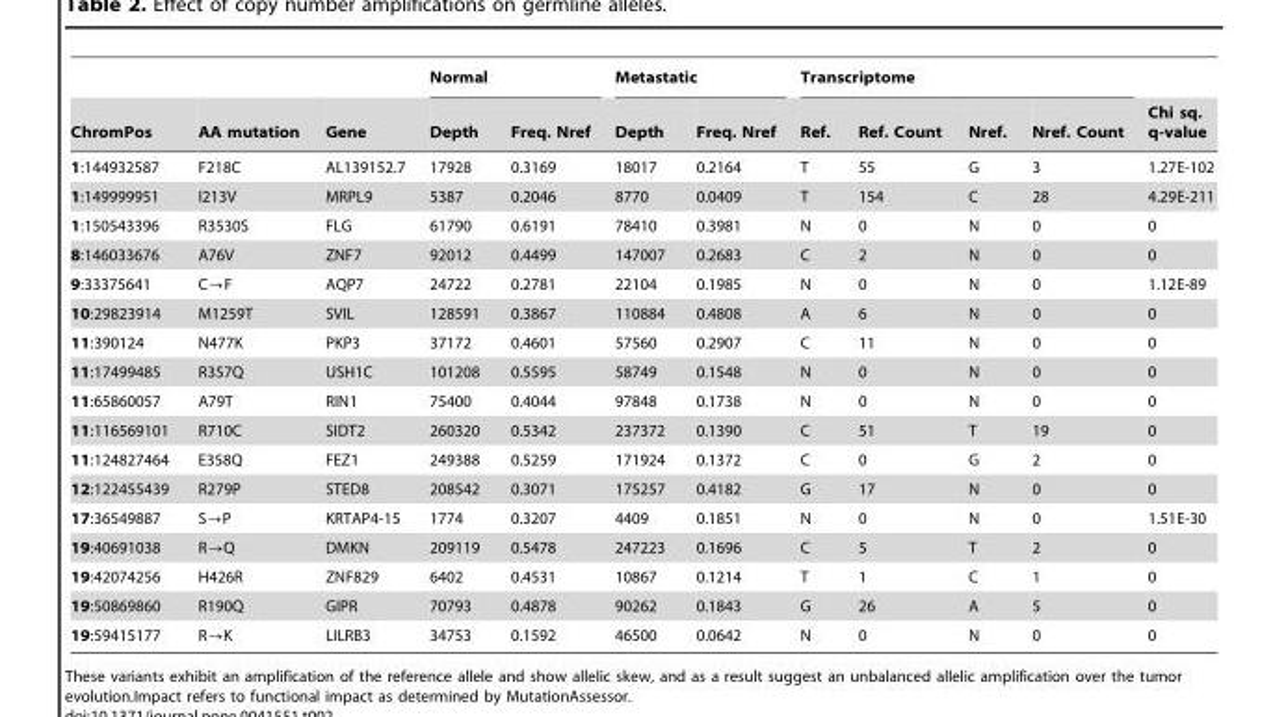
<table><thead><tr><td rowspan="2">ChromPos</td><td rowspan="2">AA mutation</td><td rowspan="2">Gene</td><td colspan="2">Normal</td><td colspan="2">Metastatic</td><td colspan="4">Transcriptome</td><td rowspan="2">Chi sq. q-value</td></tr><tr><td>Depth</td><td>Freq. Nref</td><td>Depth</td><td>Freq. Nref</td><td>Ref.</td><td>Ref. Count</td><td>Nref.</td><td>Nref. Count</td></tr></thead><tbody><tr><td>1:144932587</td><td>F218C</td><td>AL139152.7</td><td>17928</td><td>0.3169</td><td>18017</td><td>0.2164</td><td>T</td><td>55</td><td>G</td><td>3</td><td>1.27E-102</td></tr><tr><td>1:149999951</td><td>I213V</td><td>MRPL9</td><td>5387</td><td>0.2046</td><td>8770</td><td>0.0409</td><td>T</td><td>154</td><td>C</td><td>28</td><td>4.29E-211</td></tr><tr><td>1:150543396</td><td>R3530S</td><td>FLG</td><td>61790</td><td>0.6191</td><td>78410</td><td>0.3981</td><td>N</td><td>0</td><td>N</td><td>0</td><td>0</td></tr><tr><td>8:146033676</td><td>A76V</td><td>ZNF7</td><td>92012</td><td>0.4499</td><td>147007</td><td>0.2683</td><td>C</td><td>2</td><td>N</td><td>0</td><td>0</td></tr><tr><td>9:33375641</td><td>C?F</td><td>AQP7</td><td>24722</td><td>0.2781</td><td>22104</td><td>0.1985</td><td>N</td><td>0</td><td>N</td><td>0</td><td>1.12E-89</td></tr><tr><td>10:29823914</td><td>M1259T</td><td>SVIL</td><td>128591</td><td>0.3867</td><td>110884</td><td>0.4808</td><td>A</td><td>6</td><td>N</td><td>0</td><td>0</td></tr><tr><td>11:390124</td><td>N477K</td><td>PKP3</td><td>37172</td><td>0.4601</td><td>57560</td><td>0.2907</td><td>C</td><td>11</td><td>N</td><td>0</td><td>0</td></tr><tr><td>11:17499485</td><td>R357Q</td><td>USH1C</td><td>101208</td><td>0.5595</td><td>58749</td><td>0.1548</td><td>N</td><td>0</td><td>N</td><td>0</td><td>0</td></tr><tr><td>11:65860057</td><td>A79T</td><td>RIN1</td><td>75400</td><td>0.4044</td><td>97848</td><td>0.1738</td><td>N</td><td>0</td><td>N</td><td>0</td><td>0</td></tr><tr><td>11:116569101</td><td>R710C</td><td>SIDT2</td><td>260320</td><td>0.5342</td><td>237372</td><td>0.1390</td><td>C</td><td>51</td><td>T</td><td>19</td><td>0</td></tr><tr><td>11:124827464</td><td>E358Q</td><td>FEZ1</td><td>249388</td><td>0.5259</td><td>171924</td><td>0.1372</td><td>C</td><td>0</td><td>G</td><td>2</td><td>0</td></tr><tr><td>12:122455439</td><td>R279P</td><td>STED8</td><td>208542</td><td>0.3071</td><td>175257</td><td>0.4182</td><td>G</td><td>17</td><td>N</td><td>0</td><td>0</td></tr><tr><td>17:36549887</td><td>S?P</td><td>KRTAP4-15</td><td>1774</td><td>0.3207</td><td>4409</td><td>0.1851</td><td>N</td><td>0</td><td>N</td><td>0</td><td>1.51E-30</td></tr><tr><td>19:40691038</td><td>R?Q</td><td>DMKN</td><td>209119</td><td>0.5478</td><td>247223</td><td>0.1696</td><td>C</td><td>5</td><td>T</td><td>2</td><td>0</td></tr><tr><td>19:42074256</td><td>H426R</td><td>ZNF829</td><td>6402</td><td>0.4531</td><td>10867</td><td>0.1214</td><td>T</td><td>1</td><td>C</td><td>1</td><td>0</td></tr><tr><td>19:50869860</td><td>R190Q</td><td>GIPR</td><td>70793</td><td>0.4878</td><td>90262</td><td>0.1843</td><td>G</td><td>26</td><td>A</td><td>5</td><td>0</td></tr><tr><td>19:59415177</td><td>R?K</td><td>LILRB3</td><td>34753</td><td>0.1592</td><td>46500</td><td>0.0642</td><td>N</td><td>0</td><td>N</td><td>0</td><td>0</td></tr></tbody></table>